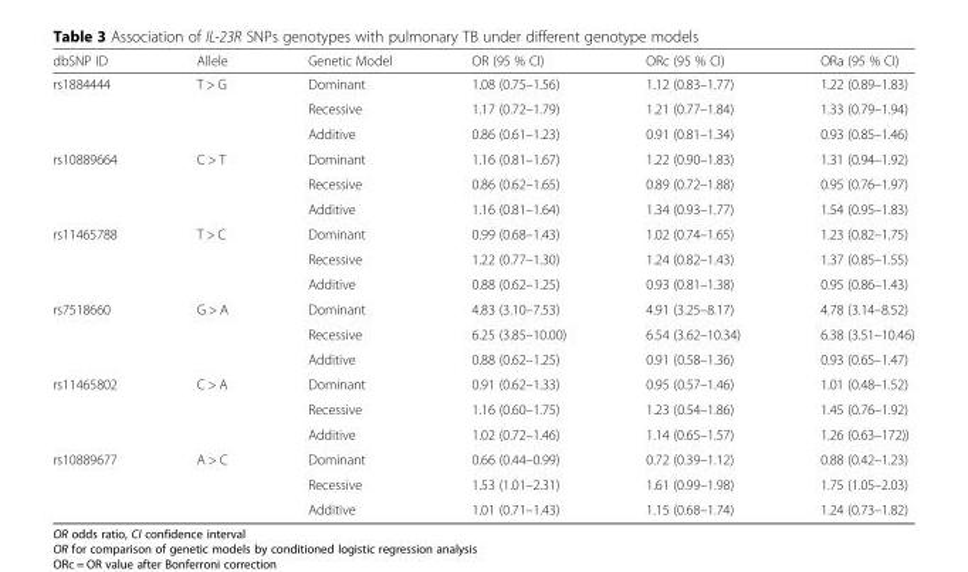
<table><thead><tr><td>dbSNP ID</td><td>Allele</td><td>Genetic Model</td><td>OR (95 % CI)</td><td>ORc (95 % CI)</td><td>ORa (95 % CI)</td></tr></thead><tbody><tr><td rowspan="3">rs1884444</td><td>T &gt; G</td><td>Dominant</td><td>1.08 (0.75–1.56)</td><td>1.12 (0.83–1.77)</td><td>1.22 (0.89–1.83)</td></tr><tr><td></td><td>Recessive</td><td>1.17 (0.72–1.79)</td><td>1.21 (0.77–1.84)</td><td>1.33 (0.79–1.94)</td></tr><tr><td></td><td>Additive</td><td>0.86 (0.61–1.23)</td><td>0.91 (0.81–1.34)</td><td>0.93 (0.85–1.46)</td></tr><tr><td rowspan="3">rs10889664</td><td>C &gt; T</td><td>Dominant</td><td>1.16 (0.81–1.67)</td><td>1.22 (0.90–1.83)</td><td>1.31 (0.94–1.92)</td></tr><tr><td></td><td>Recessive</td><td>0.86 (0.62–1.65)</td><td>0.89 (0.72–1.88)</td><td>0.95 (0.76–1.97)</td></tr><tr><td></td><td>Additive</td><td>1.16 (0.81–1.64)</td><td>1.34 (0.93–1.77)</td><td>1.54 (0.95–1.83)</td></tr><tr><td rowspan="3">rs11465788</td><td>T &gt; C</td><td>Dominant</td><td>0.99 (0.68–1.43)</td><td>1.02 (0.74–1.65)</td><td>1.23 (0.82–1.75)</td></tr><tr><td></td><td>Recessive</td><td>1.22 (0.77–1.30)</td><td>1.24 (0.82–1.43)</td><td>1.37 (0.85–1.55)</td></tr><tr><td></td><td>Additive</td><td>0.88 (0.62–1.25)</td><td>0.93 (0.81–1.38)</td><td>0.95 (0.86–1.43)</td></tr><tr><td rowspan="3">rs7518660</td><td>G &gt; A</td><td>Dominant</td><td>4.83 (3.10–7.53)</td><td>4.91 (3.25–8.17)</td><td>4.78 (3.14–8.52)</td></tr><tr><td></td><td>Recessive</td><td>6.25 (3.85–10.00)</td><td>6.54 (3.62–10.34)</td><td>6.38 (3.51–10.46)</td></tr><tr><td></td><td>Additive</td><td>0.88 (0.62–1.25)</td><td>0.91 (0.58–1.36)</td><td>0.93 (0.65–1.47)</td></tr><tr><td rowspan="3">rs11465802</td><td>C &gt; A</td><td>Dominant</td><td>0.91 (0.62–1.33)</td><td>0.95 (0.57–1.46)</td><td>1.01 (0.48–1.52)</td></tr><tr><td></td><td>Recessive</td><td>1.16 (0.60–1.75)</td><td>1.23 (0.54–1.86)</td><td>1.45 (0.76–1.92)</td></tr><tr><td></td><td>Additive</td><td>1.02 (0.72–1.46)</td><td>1.14 (0.65–1.57)</td><td>1.26 (0.63–172))</td></tr><tr><td rowspan="3">rs10889677</td><td>A &gt; C</td><td>Dominant</td><td>0.66 (0.44–0.99)</td><td>0.72 (0.39–1.12)</td><td>0.88 (0.42–1.23)</td></tr><tr><td></td><td>Recessive</td><td>1.53 (1.01–2.31)</td><td>1.61 (0.99–1.98)</td><td>1.75 (1.05–2.03)</td></tr><tr><td></td><td>Additive</td><td>1.01 (0.71–1.43)</td><td>1.15 (0.68–1.74)</td><td>1.24 (0.73–1.82)</td></tr></tbody></table>